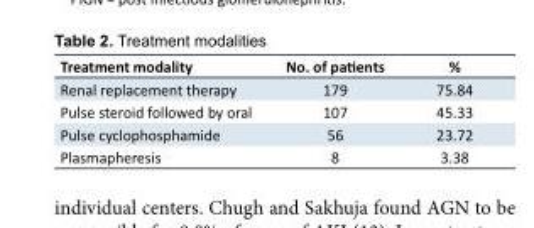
<table><tbody><tr><td>Treatment modality</td><td>No. of patients</td><td>%</td></tr><tr><td>Renal replacement therapy</td><td>179</td><td>75.84</td></tr><tr><td>Pulse steroid followed by oral</td><td>107</td><td>45.33</td></tr><tr><td>Pulse cyclophosphamide</td><td>56</td><td>23.72</td></tr><tr><td>Plasmapheresis</td><td>8</td><td>3.38</td></tr></tbody></table>